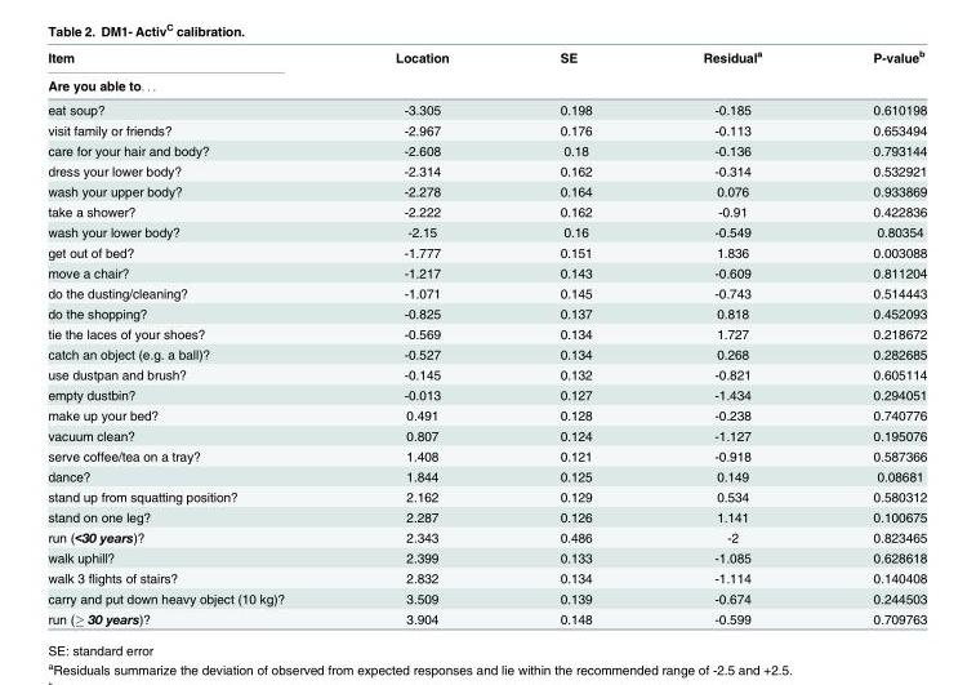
<table><thead><tr><td rowspan="2">Item Are you able to. . .</td><td rowspan="2">Location</td><td rowspan="2">SE</td><td rowspan="2">Residual<sup>a</sup></td><td rowspan="2">P-value<sup>b</sup></td></tr><tr></tr></thead><tbody><tr><td>eat soup?</td><td>-3.305</td><td>0.198</td><td>-0.185</td><td>0.610198</td></tr><tr><td>visit family or friends?</td><td>-2.967</td><td>0.176</td><td>-0.113</td><td>0.653494</td></tr><tr><td>care for your hair and body?</td><td>-2.608</td><td>0.18</td><td>-0.136</td><td>0.793144</td></tr><tr><td>dress your lower body?</td><td>-2.314</td><td>0.162</td><td>-0.314</td><td>0.532921</td></tr><tr><td>wash your upper body?</td><td>-2.278</td><td>0.164</td><td>0.076</td><td>0.933869</td></tr><tr><td>take a shower?</td><td>-2.222</td><td>0.162</td><td>-0.91</td><td>0.422836</td></tr><tr><td>wash your lower body?</td><td>-2.15</td><td>0.16</td><td>-0.549</td><td>0.80354</td></tr><tr><td>get out of bed?</td><td>-1.777</td><td>0.151</td><td>1.836</td><td>0.003088</td></tr><tr><td>move a chair?</td><td>-1.217</td><td>0.143</td><td>-0.609</td><td>0.811204</td></tr><tr><td>do the dusting/cleaning?</td><td>-1.071</td><td>0.145</td><td>-0.743</td><td>0.514443</td></tr><tr><td>do the shopping?</td><td>-0.825</td><td>0.137</td><td>0.818</td><td>0.452093</td></tr><tr><td>tie the laces of your shoes?</td><td>-0.569</td><td>0.134</td><td>1.727</td><td>0.218672</td></tr><tr><td>catch an object (e.g. a ball)?</td><td>-0.527</td><td>0.134</td><td>0.268</td><td>0.282685</td></tr><tr><td>use dustpan and brush?</td><td>-0.145</td><td>0.132</td><td>-0.821</td><td>0.605114</td></tr><tr><td>empty dustbin?</td><td>-0.013</td><td>0.127</td><td>-1.434</td><td>0.294051</td></tr><tr><td>make up your bed?</td><td>0.491</td><td>0.128</td><td>-0.238</td><td>0.740776</td></tr><tr><td>vacuum clean?</td><td>0.807</td><td>0.124</td><td>-1.127</td><td>0.195076</td></tr><tr><td>serve coffee/tea on a tray?</td><td>1.408</td><td>0.121</td><td>-0.918</td><td>0.587366</td></tr><tr><td>dance?</td><td>1.844</td><td>0.125</td><td>0.149</td><td>0.08681</td></tr><tr><td>stand up from squatting position?</td><td>2.162</td><td>0.129</td><td>0.534</td><td>0.580312</td></tr><tr><td>stand on one leg?</td><td>2.287</td><td>0.126</td><td>1.141</td><td>0.100675</td></tr><tr><td>run (&lt;30 years)?</td><td>2.343</td><td>0.486</td><td>-2</td><td>0.823465</td></tr><tr><td>walk uphill?</td><td>2.399</td><td>0.133</td><td>-1.085</td><td>0.628618</td></tr><tr><td>walk 3 flights of stairs?</td><td>2.832</td><td>0.134</td><td>-1.114</td><td>0.140408</td></tr><tr><td>carry and put down heavy object (10 kg)?</td><td>3.509</td><td>0.139</td><td>-0.674</td><td>0.244503</td></tr><tr><td>run (≥ 30 years)?</td><td>3.904</td><td>0.148</td><td>-0.599</td><td>0.709763</td></tr></tbody></table>